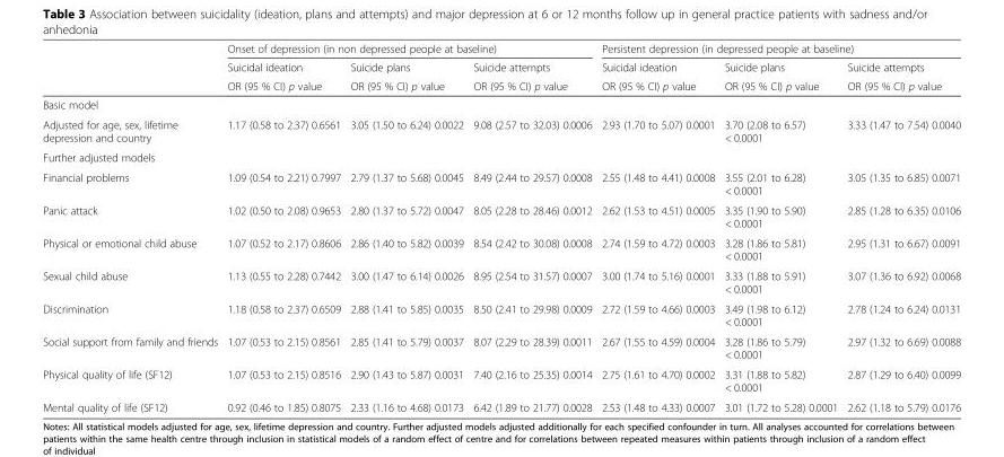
<table><thead><tr><td rowspan="3"></td><td colspan="3">Onset of depression (in non depressed people at baseline)</td><td colspan="3">Persistent depression (in depressed people at baseline)</td></tr><tr><td rowspan="2">Suicidal ideation OR (95 % CI) p value</td><td rowspan="2">Suicide plans OR (95 % CI) p value</td><td rowspan="2">Suicide attempts OR (95 % CI) p value</td><td rowspan="2">Suicidal ideation OR (95 % CI) p value</td><td rowspan="2">Suicide plans OR (95 % CI) p value</td><td rowspan="2">Suicide attempts OR (95 % CI) p value</td></tr><tr></tr></thead><tbody><tr><td colspan="7">Basic model</td></tr><tr><td>Adjusted for age, sex, lifetime depression and country</td><td>1.17 (0.58 to 2.37) 0.6561</td><td>3.05 (1.50 to 6.24) 0.0022</td><td>9.08 (2.57 to 32.03) 0.0006</td><td>2.93 (1.70 to 5.07) 0.0001</td><td>3.70 (2.08 to 6.57) &lt; 0.0001</td><td>3.33 (1.47 to 7.54) 0.0040</td></tr><tr><td colspan="7">Further adjusted models</td></tr><tr><td>Financial problems</td><td>1.09 (0.54 to 2.21) 0.7997</td><td>2.79 (1.37 to 5.68) 0.0045</td><td>8.49 (2.44 to 29.57) 0.0008</td><td>2.55 (1.48 to 4.41) 0.0008</td><td>3.55 (2.01 to 6.28) &lt; 0.0001</td><td>3.05 (1.35 to 6.85) 0.0071</td></tr><tr><td>Panic attack</td><td>1.02 (0.50 to 2.08) 0.9653</td><td>2.80 (1.37 to 5.72) 0.0047</td><td>8.05 (2.28 to 28.46) 0.0012</td><td>2.62 (1.53 to 4.51) 0.0005</td><td>3.35 (1.90 to 5.90) &lt; 0.0001</td><td>2.85 (1.28 to 6.35) 0.0106</td></tr><tr><td>Physical or emotional child abuse</td><td>1.07 (0.52 to 2.17) 0.8606</td><td>2.86 (1.40 to 5.82) 0.0039</td><td>8.54 (2.42 to 30.08) 0.0008</td><td>2.74 (1.59 to 4.72) 0.0003</td><td>3.28 (1.86 to 5.81) &lt; 0.0001</td><td>2.95 (1.31 to 6.67) 0.0091</td></tr><tr><td>Sexual child abuse</td><td>1.13 (0.55 to 2.28) 0.7442</td><td>3.00 (1.47 to 6.14) 0.0026</td><td>8.95 (2.54 to 31.57) 0.0007</td><td>3.00 (1.74 to 5.16) 0.0001</td><td>3.33 (1.88 to 5.91) &lt; 0.0001</td><td>3.07 (1.36 to 6.92) 0.0068</td></tr><tr><td>Discrimination</td><td>1.18 (0.58 to 2.37) 0.6509</td><td>2.88 (1.41 to 5.85) 0.0035</td><td>8.50 (2.41 to 29.98) 0.0009</td><td>2.72 (1.59 to 4.66) 0.0003</td><td>3.49 (1.98 to 6.12) &lt; 0.0001</td><td>2.78 (1.24 to 6.24) 0.0131</td></tr><tr><td>Social support from family and friends</td><td>1.07 (0.53 to 2.15) 0.8561</td><td>2.85 (1.41 to 5.79) 0.0037</td><td>8.07 (2.29 to 28.39) 0.0011</td><td>2.67 (1.55 to 4.59) 0.0004</td><td>3.28 (1.86 to 5.79) &lt; 0.0001</td><td>2.97 (1.32 to 6.69) 0.0088</td></tr><tr><td>Physical quality of life (SF12)</td><td>1.07 (0.53 to 2.15) 0.8516</td><td>2.90 (1.43 to 5.87) 0.0031</td><td>7.40 (2.16 to 25.35) 0.0014</td><td>2.75 (1.61 to 4.70) 0.0002</td><td>3.31 (1.88 to 5.82) &lt; 0.0001</td><td>2.87 (1.29 to 6.40) 0.0099</td></tr><tr><td>Mental quality of life (SF12)</td><td>0.92 (0.46 to 1.85) 0.8075</td><td>2.33 (1.16 to 4.68) 0.0173</td><td>6.42 (1.89 to 21.77) 0.0028</td><td>2.53 (1.48 to 4.33) 0.0007</td><td>3.01 (1.72 to 5.28) 0.0001</td><td>2.62 (1.18 to 5.79) 0.0176</td></tr></tbody></table>